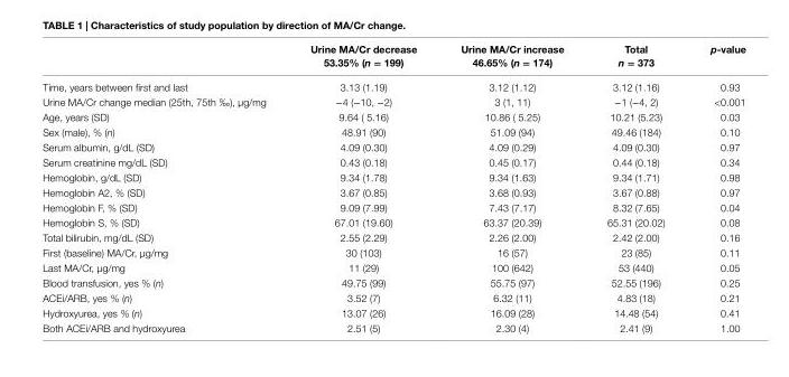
<table><thead><tr><td></td><td>Urine Ma/cr decrease 53.35% (n = 199)</td><td>Urine Ma/cr increase 46.65% (n = 174)</td><td>Total n = 373</td><td>p-value</td></tr></thead><tbody><tr><td>Time, years between first and last</td><td>3.13 (1.19)</td><td>3.12 (1.12)</td><td>3.12 (1.16)</td><td>0.93</td></tr><tr><td>Urine MA/Cr change median (25th, 75th ‰), µg/mg</td><td>−4 (−10, −2)</td><td>3 (1, 11)</td><td>−1 (−4, 2)</td><td>&lt;0.001</td></tr><tr><td>Age, years (SD)</td><td>9.64 ( 5.16)</td><td>10.86 ( 5.25)</td><td>10.21 (5.23)</td><td>0.03</td></tr><tr><td>Sex (male), % (n)</td><td>48.91 (90)</td><td>51.09 (94)</td><td>49.46 (184)</td><td>0.10</td></tr><tr><td>Serum albumin, g/dL (SD)</td><td>4.09 (0.30)</td><td>4.09 (0.29)</td><td>4.09 (0.30)</td><td>0.97</td></tr><tr><td>Serum creatinine mg/dL (SD)</td><td>0.43 (0.18)</td><td>0.45 (0.17)</td><td>0.44 (0.18)</td><td>0.34</td></tr><tr><td>Hemoglobin, g/dL (SD)</td><td>9.34 (1.78)</td><td>9.34 (1.63)</td><td>9.34 (1.71)</td><td>0.98</td></tr><tr><td>Hemoglobin A2, % (SD)</td><td>3.67 (0.85)</td><td>3.68 (0.93)</td><td>3.67 (0.88)</td><td>0.97</td></tr><tr><td>Hemoglobin F, % (SD)</td><td>9.09 (7.99)</td><td>7.43 (7.17)</td><td>8.32 (7.65)</td><td>0.04</td></tr><tr><td>Hemoglobin S, % (SD)</td><td>67.01 (19.60)</td><td>63.37 (20.39)</td><td>65.31 (20.02)</td><td>0.08</td></tr><tr><td>Total bilirubin, mg/dL (SD)</td><td>2.55 (2.29)</td><td>2.26 (2.00)</td><td>2.42 (2.00)</td><td>0.16</td></tr><tr><td>First (baseline) MA/Cr, µg/mg</td><td>30 (103)</td><td>16 (57)</td><td>23 (85)</td><td>0.11</td></tr><tr><td>Last MA/Cr, µg/mg</td><td>11 (29)</td><td>100 (642)</td><td>53 (440)</td><td>0.05</td></tr><tr><td>Blood transfusion, yes % (n)</td><td>49.75 (99)</td><td>55.75 (97)</td><td>52.55 (196)</td><td>0.25</td></tr><tr><td>ACEi/ARB, yes % (n)</td><td>3.52 (7)</td><td>6.32 (11)</td><td>4.83 (18)</td><td>0.21</td></tr><tr><td>Hydroxyurea, yes % (n)</td><td>13.07 (26)</td><td>16.09 (28)</td><td>14.48 (54)</td><td>0.41</td></tr><tr><td>Both ACEi/ARB and hydroxyurea</td><td>2.51 (5)</td><td>2.30 (4)</td><td>2.41 (9)</td><td>1.00</td></tr></tbody></table>